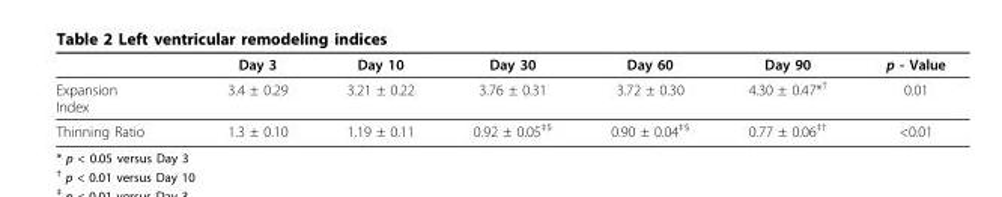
<table><thead><tr><td></td><td>Day 3</td><td>Day 10</td><td>Day 30</td><td>Day 60</td><td>Day 90</td><td>p - Value</td></tr></thead><tbody><tr><td>Expansion Index</td><td>3.4 ± 0.29</td><td>3.21 ± 0.22</td><td>3.76 ± 0.31</td><td>3.72 ± 0.30</td><td>4.30 ± 0.47*<sup>†</sup></td><td>0.01</td></tr><tr><td>Thinning Ratio</td><td>1.3 ± 0.10</td><td>1.19 ± 0.11</td><td>0.92 ± 0.05<sup>‡§</sup></td><td>0.90 ± 0.04<sup>‡§</sup></td><td>0.77 ± 0.06<sup>‡†</sup></td><td>&lt;0.01</td></tr></tbody></table>